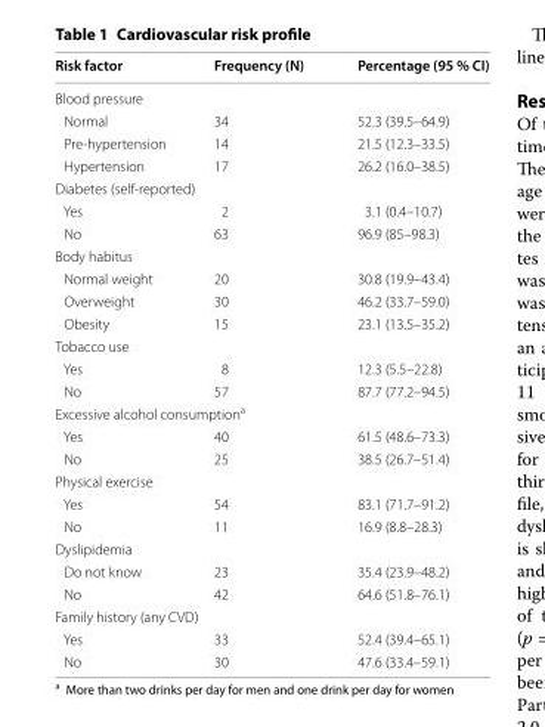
<table><thead><tr><td>Risk factor</td><td>Frequency (N)</td><td>Percentage (95 % CI)</td></tr></thead><tbody><tr><td colspan="3">Blood pressure</td></tr><tr><td>Normal</td><td>34</td><td>52.3 (39.5–64.9)</td></tr><tr><td>Pre-hypertension</td><td>14</td><td>21.5 (12.3–33.5)</td></tr><tr><td>Hypertension</td><td>17</td><td>26.2 (16.0–38.5)</td></tr><tr><td colspan="3">Diabetes (self-reported)</td></tr><tr><td>Yes</td><td>2</td><td>3.1 (0.4–10.7)</td></tr><tr><td>No</td><td>63</td><td>96.9 (85–98.3)</td></tr><tr><td colspan="3">Body habitus</td></tr><tr><td>Normal weight</td><td>20</td><td>30.8 (19.9–43.4)</td></tr><tr><td>Overweight</td><td>30</td><td>46.2 (33.7–59.0)</td></tr><tr><td>Obesity</td><td>15</td><td>23.1 (13.5–35.2)</td></tr><tr><td colspan="3">Tobacco use</td></tr><tr><td>Yes</td><td>8</td><td>12.3 (5.5–22.8)</td></tr><tr><td>No</td><td>57</td><td>87.7 (77.2–94.5)</td></tr><tr><td colspan="3">Excessive alcohol consumption<sup>a</sup></td></tr><tr><td>Yes</td><td>40</td><td>61.5 (48.6–73.3)</td></tr><tr><td>No</td><td>25</td><td>38.5 (26.7–51.4)</td></tr><tr><td colspan="3">Physical exercise</td></tr><tr><td>Yes</td><td>54</td><td>83.1 (71.7–91.2)</td></tr><tr><td>No</td><td>11</td><td>16.9 (8.8–28.3)</td></tr><tr><td colspan="3">Dyslipidemia</td></tr><tr><td>Do not know</td><td>23</td><td>35.4 (23.9–48.2)</td></tr><tr><td>No</td><td>42</td><td>64.6 (51.8–76.1)</td></tr><tr><td colspan="3">Family history (any CVD)</td></tr><tr><td>Yes</td><td>33</td><td>52.4 (39.4–65.1)</td></tr><tr><td>No</td><td>30</td><td>47.6 (33.4–59.1)</td></tr></tbody></table>